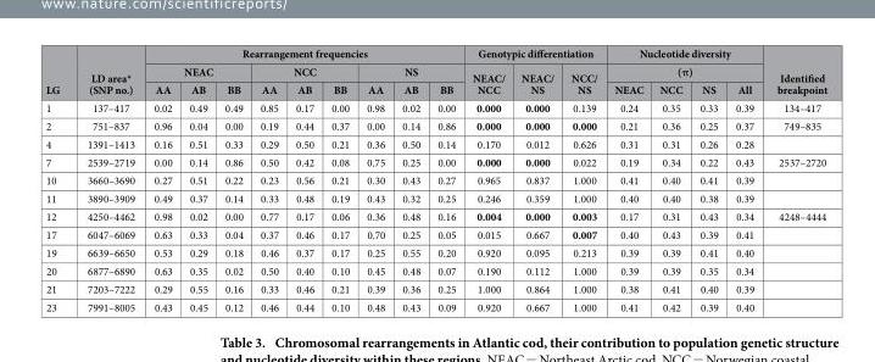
<table><thead><tr><td rowspan="3">LG</td><td rowspan="3">LD area* (SNP no.)</td><td colspan="9">Rearrangement frequencies</td><td colspan="3">Genotypic differentiation</td><td rowspan="2" colspan="4">Nucleotide diversity (π)</td><td rowspan="3">Identified breakpoint</td></tr><tr><td colspan="3">NEAC</td><td colspan="3">NCC</td><td colspan="3">NS</td><td rowspan="2">NEAC/ NCC</td><td rowspan="2">NEAC/ NS</td><td rowspan="2">NCC/ NS</td></tr><tr><td>AA</td><td>AB</td><td>BB</td><td>AA</td><td>AB</td><td>BB</td><td>AA</td><td>AB</td><td>BB</td><td>NEAC</td><td>NCC</td><td>NS</td><td>All</td></tr></thead><tbody><tr><td>1</td><td>137–417</td><td>0.02</td><td>0.49</td><td>0.49</td><td>0.85</td><td>0.17</td><td>0.00</td><td>0.98</td><td>0.02</td><td>0.00</td><td>0.000</td><td>0.000</td><td>0.139</td><td>0.24</td><td>0.35</td><td>0.33</td><td>0.39</td><td>134–417</td></tr><tr><td>2</td><td>751–837</td><td>0.96</td><td>0.04</td><td>0.00</td><td>0.19</td><td>0.44</td><td>0.37</td><td>0.00</td><td>0.14</td><td>0.86</td><td>0.000</td><td>0.000</td><td>0.000</td><td>0.21</td><td>0.36</td><td>0.25</td><td>0.37</td><td>749–835</td></tr><tr><td>4</td><td>1391–1413</td><td>0.16</td><td>0.51</td><td>0.33</td><td>0.29</td><td>0.50</td><td>0.21</td><td>0.36</td><td>0.50</td><td>0.14</td><td>0.170</td><td>0.012</td><td>0.626</td><td>0.31</td><td>0.31</td><td>0.26</td><td>0.28</td><td></td></tr><tr><td>7</td><td>2539–2719</td><td>0.00</td><td>0.14</td><td>0.86</td><td>0.50</td><td>0.42</td><td>0.08</td><td>0.75</td><td>0.25</td><td>0.00</td><td>0.000</td><td>0.000</td><td>0.022</td><td>0.19</td><td>0.34</td><td>0.22</td><td>0.43</td><td>2537–2720</td></tr><tr><td>10</td><td>3660–3690</td><td>0.27</td><td>0.51</td><td>0.22</td><td>0.23</td><td>0.56</td><td>0.21</td><td>0.30</td><td>0.43</td><td>0.27</td><td>0.965</td><td>0.837</td><td>1.000</td><td>0.41</td><td>0.40</td><td>0.41</td><td>0.39</td><td></td></tr><tr><td>11</td><td>3890–3909</td><td>0.49</td><td>0.37</td><td>0.14</td><td>0.33</td><td>0.48</td><td>0.19</td><td>0.43</td><td>0.32</td><td>0.25</td><td>0.246</td><td>0.359</td><td>1.000</td><td>0.40</td><td>0.40</td><td>0.38</td><td>0.39</td><td></td></tr><tr><td>12</td><td>4250–4462</td><td>0.98</td><td>0.02</td><td>0.00</td><td>0.77</td><td>0.17</td><td>0.06</td><td>0.36</td><td>0.48</td><td>0.16</td><td>0.004</td><td>0.000</td><td>0.003</td><td>0.17</td><td>0.31</td><td>0.43</td><td>0.34</td><td>4248–4444</td></tr><tr><td>17</td><td>6047–6069</td><td>0.63</td><td>0.33</td><td>0.04</td><td>0.37</td><td>0.46</td><td>0.17</td><td>0.70</td><td>0.25</td><td>0.05</td><td>0.015</td><td>0.667</td><td>0.007</td><td>0.40</td><td>0.43</td><td>0.39</td><td>0.41</td><td></td></tr><tr><td>19</td><td>6639–6650</td><td>0.53</td><td>0.29</td><td>0.18</td><td>0.46</td><td>0.37</td><td>0.17</td><td>0.25</td><td>0.55</td><td>0.20</td><td>0.920</td><td>0.095</td><td>0.213</td><td>0.39</td><td>0.39</td><td>0.41</td><td>0.40</td><td></td></tr><tr><td>20</td><td>6877–6890</td><td>0.63</td><td>0.35</td><td>0.02</td><td>0.50</td><td>0.40</td><td>0.10</td><td>0.45</td><td>0.48</td><td>0.07</td><td>0.190</td><td>0.112</td><td>1.000</td><td>0.39</td><td>0.39</td><td>0.35</td><td>0.34</td><td></td></tr><tr><td>21</td><td>7203–7222</td><td>0.29</td><td>0.55</td><td>0.16</td><td>0.33</td><td>0.46</td><td>0.21</td><td>0.39</td><td>0.36</td><td>0.25</td><td>1.000</td><td>0.864</td><td>1.000</td><td>0.38</td><td>0.41</td><td>0.40</td><td>0.39</td><td></td></tr><tr><td>23</td><td>7991–8005</td><td>0.43</td><td>0.45</td><td>0.12</td><td>0.46</td><td>0.44</td><td>0.10</td><td>0.48</td><td>0.43</td><td>0.09</td><td>0.920</td><td>0.667</td><td>1.000</td><td>0.41</td><td>0.42</td><td>0.39</td><td>0.40</td><td></td></tr></tbody></table>